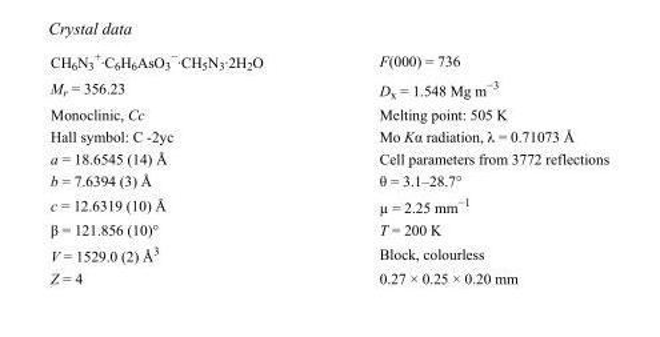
<table><tbody><tr><td>CH<sub>6</sub>N<sub>3</sub> <sup>+</sup>·C<sub>6</sub>H<sub>6</sub>AsO<sub>3</sub> <sup>−</sup>·CH<sub>5</sub>N<sub>3</sub>·2H<sub>2</sub>O</td><td>F(000) = 736</td></tr><tr><td>M<sub>r</sub> = 356.23</td><td>D<sub>x</sub> = 1.548 Mg m<sup>−3</sup></td></tr><tr><td>Monoclinic, Cc</td><td>Melting point: 505 K</td></tr><tr><td>Hall symbol: C -2yc</td><td>Mo Kα radiation, λ = 0.71073 Å</td></tr><tr><td>a = 18.6545 (14) Å</td><td>Cell parameters from 3772 reflections</td></tr><tr><td>b = 7.6394 (3) Å</td><td>θ = 3.1–28.7°</td></tr><tr><td>c = 12.6319 (10) Å</td><td>µ = 2.25 mm<sup>−1</sup></td></tr><tr><td>β = 121.856 (10)°</td><td>T = 200 K</td></tr><tr><td>V = 1529.0 (2) Å<sup>3</sup></td><td>Block, colourless</td></tr><tr><td>Z = 4</td><td>0.27 × 0.25 × 0.20 mm</td></tr></tbody></table>